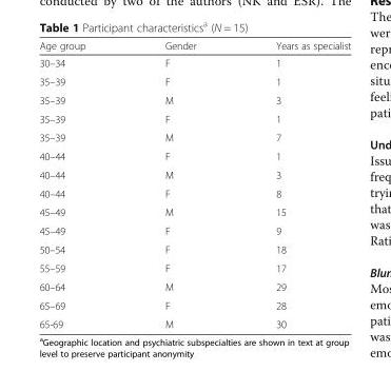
<table><thead><tr><td>Age group</td><td>Gender</td><td>Years as specialist</td></tr></thead><tbody><tr><td>30–34</td><td>F</td><td>1</td></tr><tr><td>35–39</td><td>F</td><td>1</td></tr><tr><td>35–39</td><td>M</td><td>3</td></tr><tr><td>35–39</td><td>F</td><td>1</td></tr><tr><td>35–39</td><td>M</td><td>7</td></tr><tr><td>40–44</td><td>F</td><td>1</td></tr><tr><td>40–44</td><td>M</td><td>3</td></tr><tr><td>40–44</td><td>F</td><td>8</td></tr><tr><td>45–49</td><td>M</td><td>15</td></tr><tr><td>45–49</td><td>F</td><td>9</td></tr><tr><td>50–54</td><td>F</td><td>18</td></tr><tr><td>55–59</td><td>F</td><td>17</td></tr><tr><td>60–64</td><td>M</td><td>29</td></tr><tr><td>65–69</td><td>F</td><td>28</td></tr><tr><td>65-69</td><td>M</td><td>30</td></tr></tbody></table>